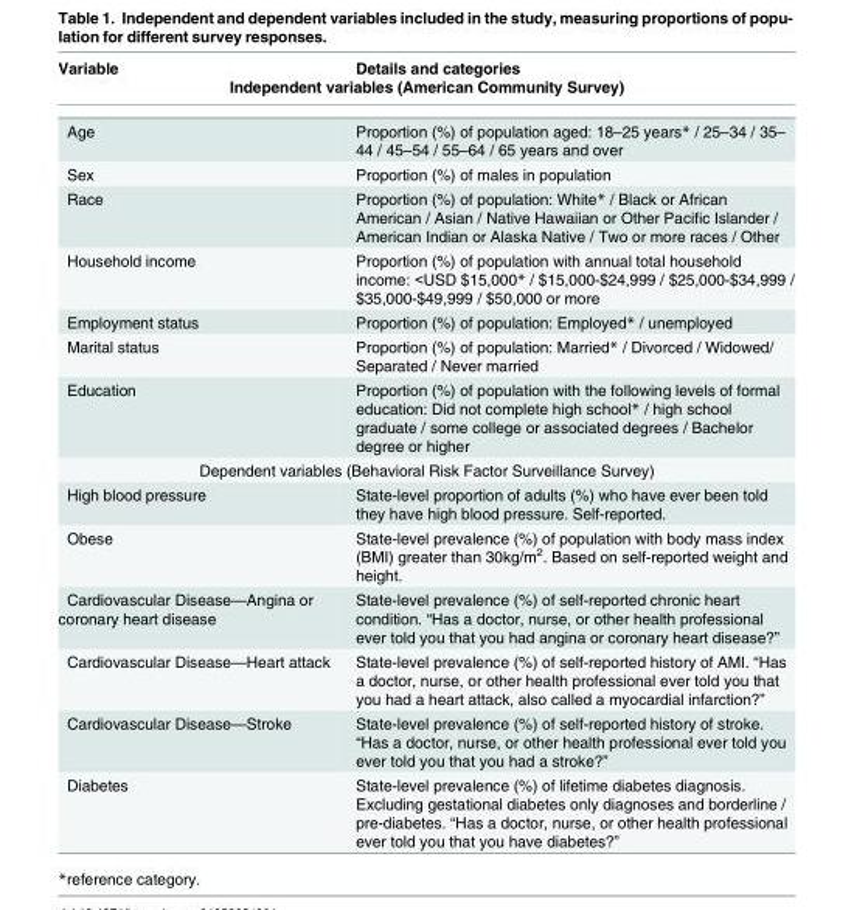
<table><thead><tr><td>Variable</td><td>Details and categories</td></tr><tr><td colspan="2">Independent variables (American Community Survey)</td></tr></thead><tbody><tr><td>Age</td><td>Proportion (%) of population aged: 18–25 years* / 25–34 / 35– 44 / 45–54 / 55–64 / 65 years and over</td></tr><tr><td>Sex</td><td>Proportion (%) of males in population</td></tr><tr><td>Race</td><td>Proportion (%) of population: White* / Black or African American / Asian / Native Hawaiian or Other Pacific Islander / American Indian or Alaska Native / Two or more races / Other</td></tr><tr><td>Household income</td><td>Proportion (%) of population with annual total household income: &lt;USD $15,000* / $15,000-$24,999 / $25,000-$34,999 / $35,000-$49,999 / $50,000 or more</td></tr><tr><td>Employment status</td><td>Proportion (%) of population: Employed* / unemployed</td></tr><tr><td>Marital status</td><td>Proportion (%) of population: Married* / Divorced / Widowed/ Separated / Never married</td></tr><tr><td>Education</td><td>Proportion (%) of population with the following levels of formal education: Did not complete high school* / high school graduate / some college or associated degrees / Bachelor degree or higher</td></tr><tr><td colspan="2">Dependent variables (Behavioral Risk Factor Surveillance Survey)</td></tr><tr><td>High blood pressure</td><td>State-level proportion of adults (%) who have ever been told they have high blood pressure. Self-reported.</td></tr><tr><td>Obese</td><td>State-level prevalence (%) of population with body mass index (BMI) greater than 30kg/m<sup>2</sup>. Based on self-reported weight and height.</td></tr><tr><td>Cardiovascular Disease—Angina or coronary heart disease</td><td>State-level prevalence (%) of self-reported chronic heart condition. “Has a doctor, nurse, or other health professional ever told you that you had angina or coronary heart disease?”</td></tr><tr><td>Cardiovascular Disease—Heart attack</td><td>State-level prevalence (%) of self-reported history of AMI. “Has a doctor, nurse, or other health professional ever told you that you had a heart attack, also called a myocardial infarction?”</td></tr><tr><td>Cardiovascular Disease—Stroke</td><td>State-level prevalence (%) of self-reported history of stroke. “Has a doctor, nurse, or other health professional ever told you ever told you that you had a stroke?”</td></tr><tr><td>Diabetes</td><td>State-level prevalence (%) of lifetime diabetes diagnosis. Excluding gestational diabetes only diagnoses and borderline / pre-diabetes. “Has a doctor, nurse, or other health professional ever told you that you have diabetes?”</td></tr></tbody></table>